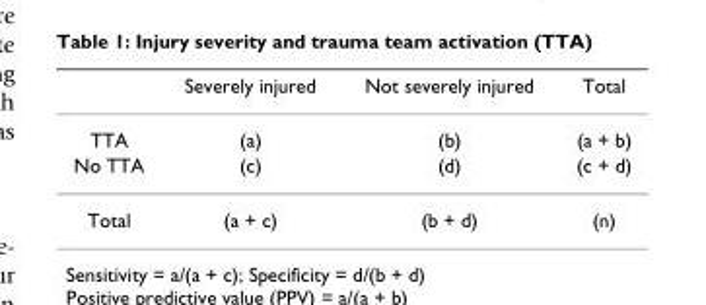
<table><thead><tr><td></td><td>Severely injured</td><td>Not severely injured</td><td>Total</td></tr></thead><tbody><tr><td>TTA</td><td>(a)</td><td>(b)</td><td>(a + b)</td></tr><tr><td>No TTA</td><td>(c)</td><td>(d)</td><td>(c + d)</td></tr><tr><td>Total</td><td>(a + c)</td><td>(b + d)</td><td>(n)</td></tr></tbody></table>